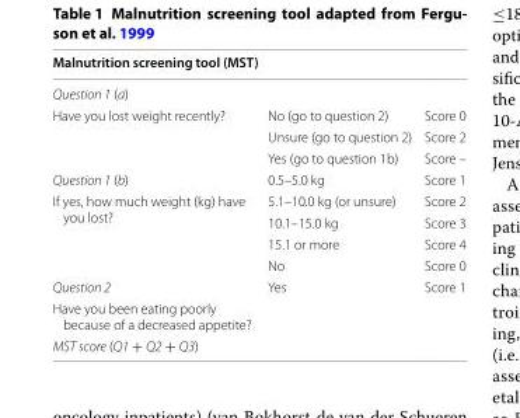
<table><thead><tr><td colspan="3">Malnutrition screening tool (MST)</td></tr><tr><td>Question 1 (a)</td><td></td><td></td></tr></thead><tbody><tr><td rowspan="3">Have you lost weight recently?</td><td>No (go to question 2)</td><td>Score 0</td></tr><tr><td>Unsure (go to question 2)</td><td>Score 2</td></tr><tr><td>Yes (go to question 1b)</td><td>Score –</td></tr><tr><td>Question 1 (b)</td><td>0.5–5.0 kg</td><td>Score 1</td></tr><tr><td rowspan="4">If yes, how much weight (kg) have you lost?</td><td>5.1–10.0 kg (or unsure)</td><td>Score 2</td></tr><tr><td>10.1–15.0 kg</td><td>Score 3</td></tr><tr><td>15.1 or more</td><td>Score 4</td></tr><tr><td>No</td><td>Score 0</td></tr><tr><td>Question 2</td><td>Yes</td><td>Score 1</td></tr><tr><td colspan="3">Have you been eating poorly because of a decreased appetite?</td></tr><tr><td>MST score (Q1 + Q2 + Q3)</td><td></td><td></td></tr></tbody></table>